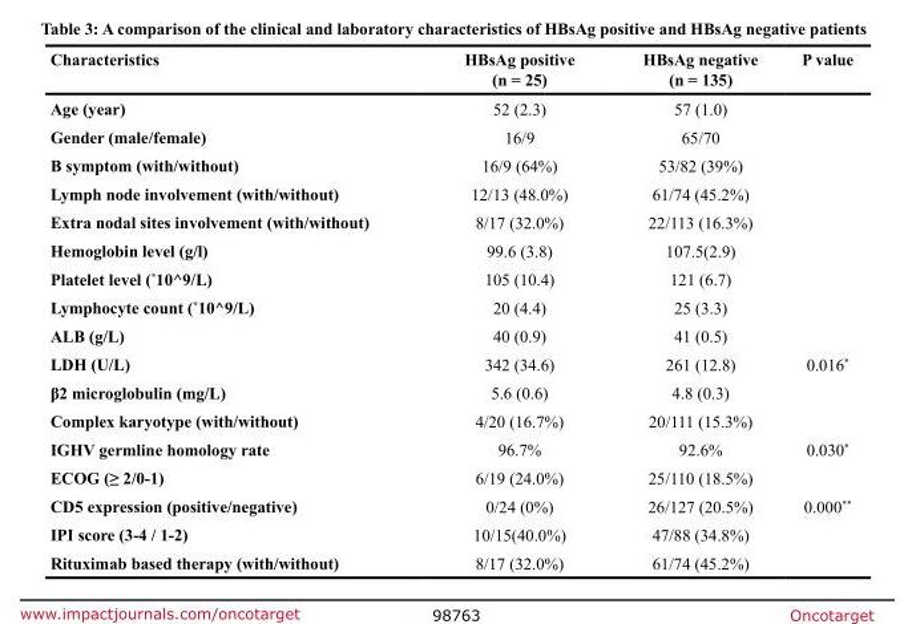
<table><thead><tr><td>Characteristics</td><td>HBsAg positive (n = 25)</td><td>HBsAg negative (n = 135)</td><td>P value</td></tr></thead><tbody><tr><td>Age (year)</td><td>52 (2.3)</td><td>57 (1.0)</td><td></td></tr><tr><td>Gender (male/female)</td><td>16/9</td><td>65/70</td><td></td></tr><tr><td>B symptom (with/without)</td><td>16/9 (64%)</td><td>53/82 (39%)</td><td></td></tr><tr><td>Lymph node involvement (with/without)</td><td>12/13 (48.0%)</td><td>61/74 (45.2%)</td><td></td></tr><tr><td>Extra nodal sites involvement (with/without)</td><td>8/17 (32.0%)</td><td>22/113 (16.3%)</td><td></td></tr><tr><td>Hemoglobin level (g/l)</td><td>99.6 (3.8)</td><td>107.5(2.9)</td><td></td></tr><tr><td>Platelet level (*10^9/L)</td><td>105 (10.4)</td><td>121 (6.7)</td><td></td></tr><tr><td>Lymphocyte count (*10^9/L)</td><td>20 (4.4)</td><td>25 (3.3)</td><td></td></tr><tr><td>ALB (g/L)</td><td>40 (0.9)</td><td>41 (0.5)</td><td></td></tr><tr><td>LDH (U/L)</td><td>342 (34.6)</td><td>261 (12.8)</td><td>0.016*</td></tr><tr><td>β2 microglobulin (mg/L)</td><td>5.6 (0.6)</td><td>4.8 (0.3)</td><td></td></tr><tr><td>Complex karyotype (with/without)</td><td>4/20 (16.7%)</td><td>20/111 (15.3%)</td><td></td></tr><tr><td>IGHV germline homology rate</td><td>96.7%</td><td>92.6%</td><td>0.030*</td></tr><tr><td>ECOG (≥ 2/0-1)</td><td>6/19 (24.0%)</td><td>25/110 (18.5%)</td><td></td></tr><tr><td>CD5 expression (positive/negative)</td><td>0/24 (0%)</td><td>26/127 (20.5%)</td><td>0.000**</td></tr><tr><td>IPI score (3-4 / 1-2)</td><td>10/15(40.0%)</td><td>47/88 (34.8%)</td><td></td></tr><tr><td>Rituximab based therapy (with/without)</td><td>8/17 (32.0%)</td><td>61/74 (45.2%)</td><td></td></tr></tbody></table>